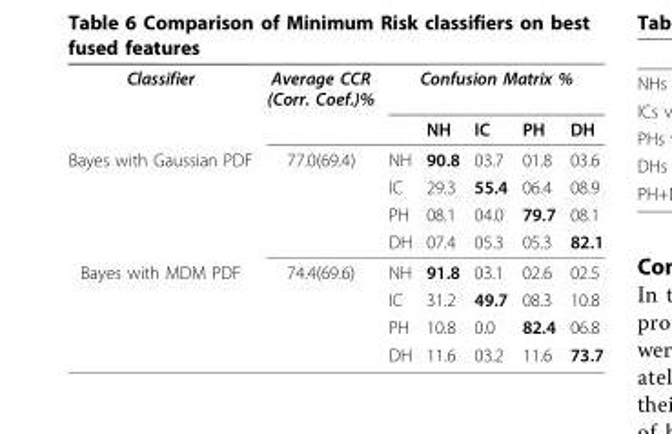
<table><tbody><tr><td rowspan="2">Classifier</td><td>Average CCR (Corr. Coef.)%</td><td colspan="5">Confusion Matrix %</td></tr><tr><td></td><td></td><td>NH</td><td>IC</td><td>PH</td><td>DH</td></tr><tr><td rowspan="4">Bayes with Gaussian PDF</td><td>77.0(69.4)</td><td>NH</td><td>90.8</td><td>03.7</td><td>01.8</td><td>03.6</td></tr><tr><td></td><td>IC</td><td>29.3</td><td>55.4</td><td>06.4</td><td>08.9</td></tr><tr><td></td><td>PH</td><td>08.1</td><td>04.0</td><td>79.7</td><td>08.1</td></tr><tr><td></td><td>DH</td><td>07.4</td><td>05.3</td><td>05.3</td><td>82.1</td></tr><tr><td rowspan="4">Bayes with MDM PDF</td><td>74.4(69.6)</td><td>NH</td><td>91.8</td><td>03.1</td><td>02.6</td><td>02.5</td></tr><tr><td></td><td>IC</td><td>31.2</td><td>49.7</td><td>08.3</td><td>10.8</td></tr><tr><td></td><td>PH</td><td>10.8</td><td>0.0</td><td>82.4</td><td>06.8</td></tr><tr><td></td><td>DH</td><td>11.6</td><td>03.2</td><td>11.6</td><td>73.7</td></tr></tbody></table>